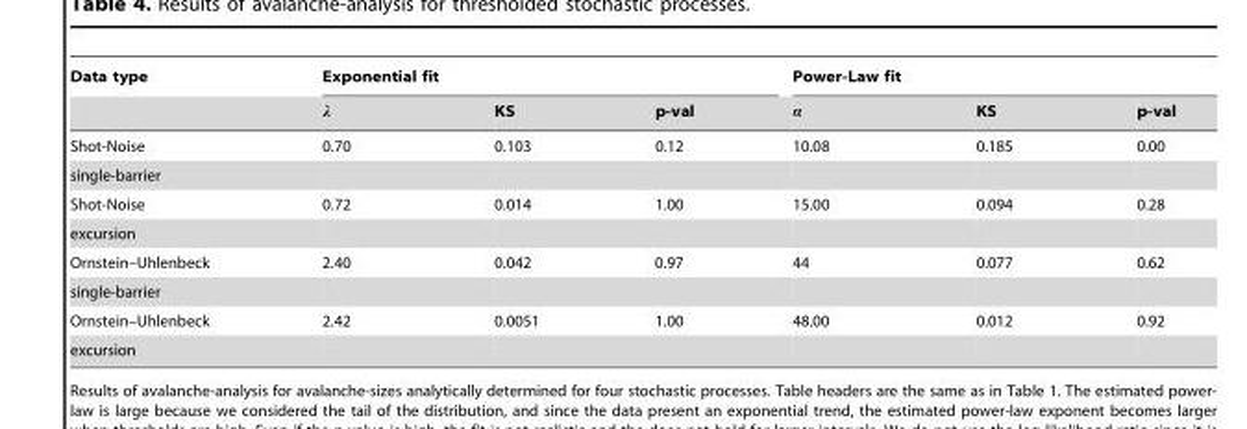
<table><thead><tr><td rowspan="2">Data type</td><td colspan="3">Exponential fit</td><td colspan="3">Power-Law fit</td></tr><tr><td>l</td><td>KS</td><td>p-val</td><td>a</td><td>KS</td><td>p-val</td></tr></thead><tbody><tr><td>Shot-Noise</td><td>0.70</td><td>0.103</td><td>0.12</td><td>10.08</td><td>0.185</td><td>0.00</td></tr><tr><td colspan="7">single-barrier</td></tr><tr><td>Shot-Noise</td><td>0.72</td><td>0.014</td><td>1.00</td><td>15.00</td><td>0.094</td><td>0.28</td></tr><tr><td colspan="7">excursion</td></tr><tr><td>Ornstein–Uhlenbeck</td><td>2.40</td><td>0.042</td><td>0.97</td><td>44</td><td>0.077</td><td>0.62</td></tr><tr><td colspan="7">single-barrier</td></tr><tr><td>Ornstein–Uhlenbeck</td><td>2.42</td><td>0.0051</td><td>1.00</td><td>48.00</td><td>0.012</td><td>0.92</td></tr><tr><td>excursion</td><td></td><td></td><td></td><td></td><td></td><td></td></tr></tbody></table>